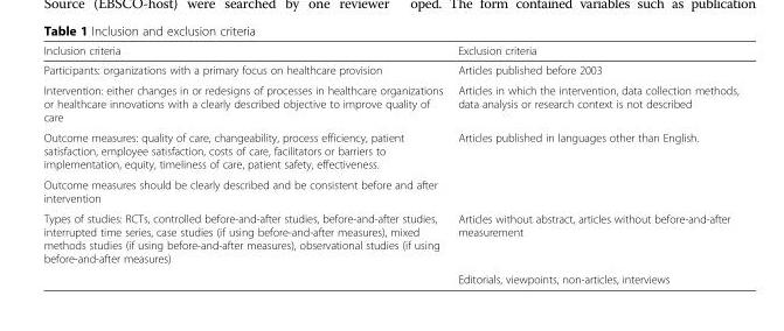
<table><thead><tr><td>Inclusion criteria</td><td>Exclusion criteria</td></tr></thead><tbody><tr><td>Participants: organizations with a primary focus on healthcare provision</td><td>Articles published before 2003</td></tr><tr><td>Intervention: either changes in or redesigns of processes in healthcare organizations or healthcare innovations with a clearly described objective to improve quality of care</td><td>Articles in which the intervention, data collection methods, data analysis or research context is not described</td></tr><tr><td>Outcome measures: quality of care, changeability, process efficiency, patient satisfaction, employee satisfaction, costs of care, facilitators or barriers to implementation, equity, timeliness of care, patient safety, effectiveness.</td><td rowspan="2">Articles published in languages other than English.</td></tr><tr><td>Outcome measures should be clearly described and be consistent before and after intervention</td></tr><tr><td rowspan="2">Types of studies: RCTs, controlled before-and-after studies, before-and-after studies, interrupted time series, case studies (if using before-and-after measures), mixed methods studies (if using before-and-after measures), observational studies (if using before-and-after measures)</td><td>Articles without abstract, articles without before-and-after measurement</td></tr><tr><td>Editorials, viewpoints, non-articles, interviews</td></tr></tbody></table>